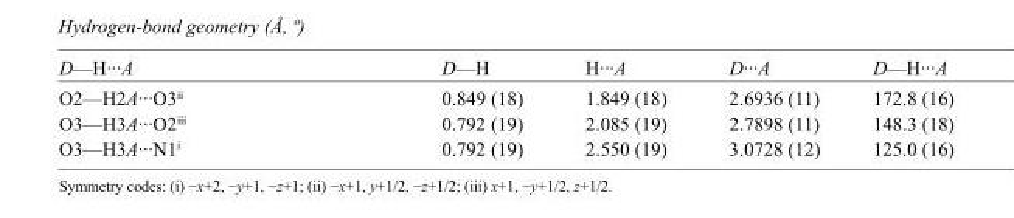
<table><tbody><tr><td>D—H···A</td><td>D—H</td><td>H···A</td><td>D···A</td><td>D—H···A</td></tr><tr><td>O2—H2A···O3<sup>ii</sup></td><td>0.849 (18)</td><td>1.849 (18)</td><td>2.6936 (11)</td><td>172.8 (16)</td></tr><tr><td>O3—H3A···O2<sup>iii</sup></td><td>0.792 (19)</td><td>2.085 (19)</td><td>2.7898 (11)</td><td>148.3 (18)</td></tr><tr><td>O3—H3A···N1<sup>i</sup></td><td>0.792 (19)</td><td>2.550 (19)</td><td>3.0728 (12)</td><td>125.0 (16)</td></tr></tbody></table>